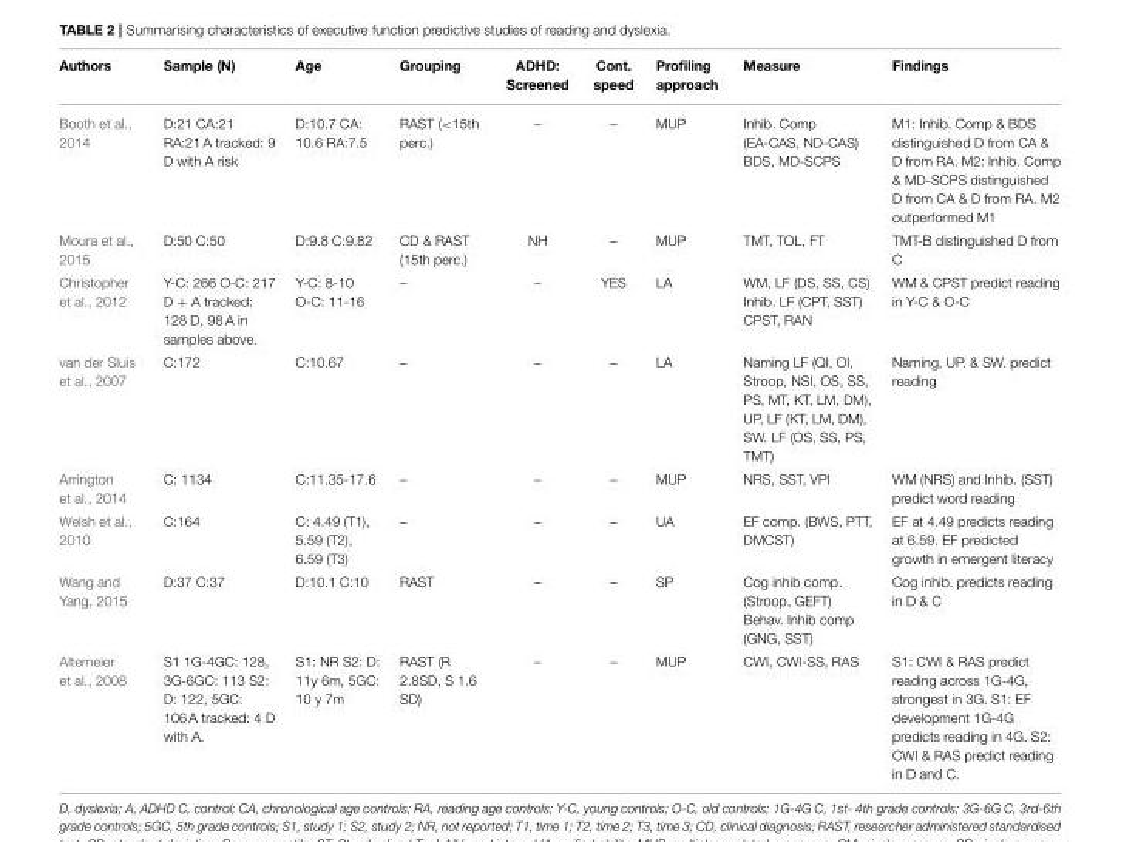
<table><thead><tr><td>Authors</td><td>Sample (N)</td><td>Age</td><td>Grouping</td><td>ADHD: Screened</td><td>Cont. speed</td><td>Profiling approach</td><td>Measure</td><td>Findings</td></tr></thead><tbody><tr><td>Booth et al., 2014</td><td>D:21 CA:21 RA:21 A tracked: 9 D with A risk</td><td>D:10.7 CA: 10.6 RA:7.5</td><td>RAST (&lt;15th perc.)</td><td>–</td><td>–</td><td>MUP</td><td>Inhib. Comp (EA-CAS, ND-CAS) BDS, MD-SCPS</td><td>M1: Inhib. Comp &amp; BDS distinguished D from CA &amp; D from RA. M2: Inhib. Comp &amp; MD-SCPS distinguished D from CA &amp; D from RA. M2 outperformed M1</td></tr><tr><td>Moura et al., 2015</td><td>D:50 C:50</td><td>D:9.8 C:9.82</td><td>CD &amp; RAST (15th perc.)</td><td>NH</td><td>–</td><td>MUP</td><td>TMT, TOL, FT</td><td>TMT-B distinguished D from C</td></tr><tr><td>Christopher et al., 2012</td><td>Y-C: 266 O-C: 217 D + A tracked: 128 D, 98 A in samples above.</td><td>Y-C: 8-10 O-C: 11-16</td><td>–</td><td>–</td><td>YES</td><td>LA</td><td>WM, LF (DS, SS, CS) Inhib. LF (CPT, SST) CPST, RAN</td><td>WM &amp; CPST predict reading in Y-C &amp; O-C</td></tr><tr><td>van der Sluis et al., 2007</td><td>C:172</td><td>C:10.67</td><td>–</td><td>–</td><td>–</td><td>LA</td><td>Naming LF (QI, OI, Stroop, NSI, OS, SS, PS, MT, KT, LM, DM), UP, LF (KT, LM, DM), SW. LF (OS, SS, PS, TMT)</td><td>Naming, UP. &amp; SW. predict reading</td></tr><tr><td>Arrington et al., 2014</td><td>C: 1134</td><td>C:11.35-17.6</td><td>–</td><td>–</td><td>–</td><td>MUP</td><td>NRS, SST, VPI</td><td>WM (NRS) and Inhib. (SST) predict word reading</td></tr><tr><td>Welsh et al., 2010</td><td>C:164</td><td>C: 4.49 (T1), 5.59 (T2), 6.59 (T3)</td><td>–</td><td>–</td><td>–</td><td>UA</td><td>EF comp. (BWS, PTT, DMCST)</td><td>EF at 4.49 predicts reading at 6.59. EF predicted growth in emergent literacy</td></tr><tr><td>Wang and Yang, 2015</td><td>D:37 C:37</td><td>D:10.1 C:10</td><td>RAST</td><td>–</td><td>–</td><td>SP</td><td>Cog inhib comp. (Stroop, GEFT) Behav. Inhib comp (GNG, SST)</td><td>Cog inhib. predicts reading in D &amp; C</td></tr><tr><td>Altemeier et al., 2008</td><td>S1 1G-4GC: 128, 3G-6GC: 113 S2: D: 122, 5GC: 106 A tracked: 4 D with A.</td><td>S1: NR S2: D: 11y 6m, 5GC: 10 y 7m</td><td>RAST (R 2.8SD, S 1.6 SD)</td><td>–</td><td>–</td><td>MUP</td><td>CWI, CWI-SS, RAS</td><td>S1: CWI &amp; RAS predict reading across 1G-4G, strongest in 3G. S1: EF development 1G-4G predicts reading in 4G. S2: CWI &amp; RAS predict reading in D and C.</td></tr></tbody></table>